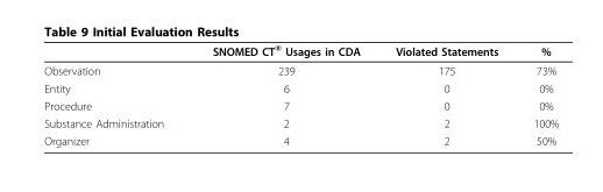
<table><thead><tr><td></td><td>SNOMED CT<sup>®</sup> Usages in CDA</td><td>Violated Statements</td><td>%</td></tr></thead><tbody><tr><td>Observation</td><td>239</td><td>175</td><td>73%</td></tr><tr><td>Entity</td><td>6</td><td>0</td><td>0%</td></tr><tr><td>Procedure</td><td>7</td><td>0</td><td>0%</td></tr><tr><td>Substance Administration</td><td>2</td><td>2</td><td>100%</td></tr><tr><td>Organizer</td><td>4</td><td>2</td><td>50%</td></tr></tbody></table>